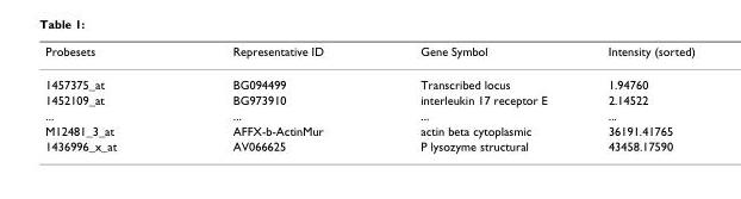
<table><thead><tr><td>Probesets</td><td>Representative ID</td><td>Gene Symbol</td><td>Intensity (sorted)</td></tr></thead><tbody><tr><td>1457375_at</td><td>BG094499</td><td>Transcribed locus</td><td>1.94760</td></tr><tr><td>1452109_at</td><td>BG973910</td><td>interleukin 17 receptor E</td><td>2.14522</td></tr><tr><td>...</td><td>...</td><td>...</td><td>...</td></tr><tr><td>M12481_3_at</td><td>AFFX-b-ActinMur</td><td>actin beta cytoplasmic</td><td>36191.41765</td></tr><tr><td>1436996_x_at</td><td>AV066625</td><td>P lysozyme structural</td><td>43458.17590</td></tr></tbody></table>